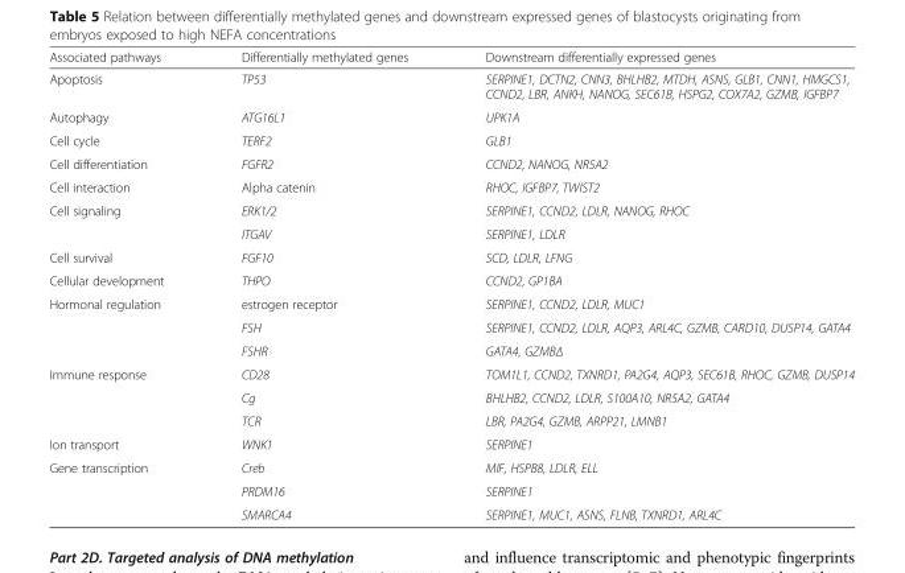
<table><thead><tr><td>Associated pathways</td><td>Differentially methylated genes</td><td>Downstream differentially expressed genes</td></tr></thead><tbody><tr><td>Apoptosis</td><td>TP53</td><td>SERPINE1, DCTN2, CNN3, BHLHB2, MTDH, ASNS, GLB1, CNN1, HMGCS1, CCND2, LBR, ANKH, NANOG, SEC61B, HSPG2, COX7A2, GZMB, IGFBP7</td></tr><tr><td>Autophagy</td><td>ATG16L1</td><td>UPK1A</td></tr><tr><td>Cell cycle</td><td>TERF2</td><td>GLB1</td></tr><tr><td>Cell differentiation</td><td>FGFR2</td><td>CCND2, NANOG, NR5A2</td></tr><tr><td>Cell interaction</td><td>Alpha catenin</td><td>RHOC, IGFBP7, TWIST2</td></tr><tr><td rowspan="2">Cell signaling</td><td>ERK1/2</td><td>SERPINE1, CCND2, LDLR, NANOG, RHOC</td></tr><tr><td>ITGAV</td><td>SERPINE1, LDLR</td></tr><tr><td>Cell survival</td><td>FGF10</td><td>SCD, LDLR, LFNG</td></tr><tr><td>Cellular development</td><td>THPO</td><td>CCND2, GP1BA</td></tr><tr><td rowspan="3">Hormonal regulation</td><td>estrogen receptor</td><td>SERPINE1, CCND2, LDLR, MUC1</td></tr><tr><td>FSH</td><td>SERPINE1, CCND2, LDLR, AQP3, ARL4C, GZMB, CARD10, DUSP14, GATA4</td></tr><tr><td>FSHR</td><td>GATA4, GZMBΔ</td></tr><tr><td rowspan="3">Immune response</td><td>CD28</td><td>TOM1L1, CCND2, TXNRD1, PA2G4, AQP3, SEC61B, RHOC, GZMB, DUSP14</td></tr><tr><td>Cg</td><td>BHLHB2, CCND2, LDLR, S100A10, NR5A2, GATA4</td></tr><tr><td>TCR</td><td>LBR, PA2G4, GZMB, ARPP21, LMNB1</td></tr><tr><td>Ion transport</td><td>WNK1</td><td>SERPINE1</td></tr><tr><td rowspan="3">Gene transcription</td><td>Creb</td><td>MIF, HSPB8, LDLR, ELL</td></tr><tr><td>PRDM16</td><td>SERPINE1</td></tr><tr><td>SMARCA4</td><td>SERPINE1, MUC1, ASNS, FLNB, TXNRD1, ARL4C</td></tr></tbody></table>